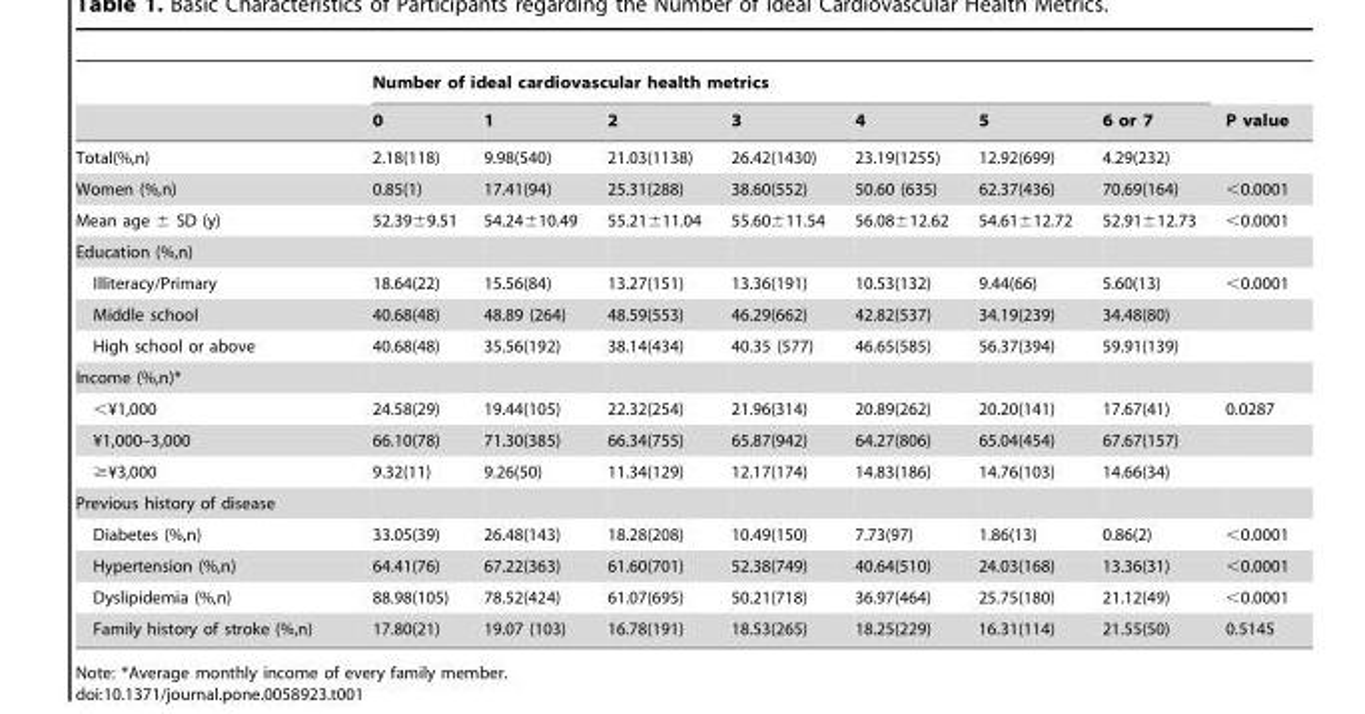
<table><thead><tr><td rowspan="2"></td><td colspan="7">Number of ideal cardiovascular health metrics</td><td rowspan="2">P value</td></tr><tr><td>0</td><td>1</td><td>2</td><td>3</td><td>4</td><td>5</td><td>6 or 7</td></tr></thead><tbody><tr><td>Total(%,n)</td><td>2.18(118)</td><td>9.98(540)</td><td>21.03(1138)</td><td>26.42(1430)</td><td>23.19(1255)</td><td>12.92(699)</td><td>4.29(232)</td><td></td></tr><tr><td>Women (%,n)</td><td>0.85(1)</td><td>17.41(94)</td><td>25.31(288)</td><td>38.60(552)</td><td>50.60 (635)</td><td>62.37(436)</td><td>70.69(164)</td><td>&lt;0.0001</td></tr><tr><td>Mean age ± SD (y)</td><td>52.39±9.51</td><td>54.24±10.49</td><td>55.21±11.04</td><td>55.60±11.54</td><td>56.08±12.62</td><td>54.61±12.72</td><td>52.91±12.73</td><td>&lt;0.0001</td></tr><tr><td colspan="9">Education (%,n)</td></tr><tr><td>Illiteracy/Primary</td><td>18.64(22)</td><td>15.56(84)</td><td>13.27(151)</td><td>13.36(191)</td><td>10.53(132)</td><td>9.44(66)</td><td>5.60(13)</td><td>&lt;0.0001</td></tr><tr><td>Middle school</td><td>40.68(48)</td><td>48.89 (264)</td><td>48.59(553)</td><td>46.29(662)</td><td>42.82(537)</td><td>34.19(239)</td><td>34.48(80)</td><td></td></tr><tr><td>High school or above</td><td>40.68(48)</td><td>35.56(192)</td><td>38.14(434)</td><td>40.35 (577)</td><td>46.65(585)</td><td>56.37(394)</td><td>59.91(139)</td><td></td></tr><tr><td colspan="9">Income (%,n)*</td></tr><tr><td>&lt;¥1,000</td><td>24.58(29)</td><td>19.44(105)</td><td>22.32(254)</td><td>21.96(314)</td><td>20.89(262)</td><td>20.20(141)</td><td>17.67(41)</td><td>0.0287</td></tr><tr><td>¥1,000–3,000</td><td>66.10(78)</td><td>71.30(385)</td><td>66.34(755)</td><td>65.87(942)</td><td>64.27(806)</td><td>65.04(454)</td><td>67.67(157)</td><td></td></tr><tr><td>≥¥3,000</td><td>9.32(11)</td><td>9.26(50)</td><td>11.34(129)</td><td>12.17(174)</td><td>14.83(186)</td><td>14.76(103)</td><td>14.66(34)</td><td></td></tr><tr><td colspan="9">Previous history of disease</td></tr><tr><td>Diabetes (%,n)</td><td>33.05(39)</td><td>26.48(143)</td><td>18.28(208)</td><td>10.49(150)</td><td>7.73(97)</td><td>1.86(13)</td><td>0.86(2)</td><td>&lt;0.0001</td></tr><tr><td>Hypertension (%,n)</td><td>64.41(76)</td><td>67.22(363)</td><td>61.60(701)</td><td>52.38(749)</td><td>40.64(510)</td><td>24.03(168)</td><td>13.36(31)</td><td>&lt;0.0001</td></tr><tr><td>Dyslipidemia (%,n)</td><td>88.98(105)</td><td>78.52(424)</td><td>61.07(695)</td><td>50.21(718)</td><td>36.97(464)</td><td>25.75(180)</td><td>21.12(49)</td><td>&lt;0.0001</td></tr><tr><td>Family history of stroke (%,n)</td><td>17.80(21)</td><td>19.07 (103)</td><td>16.78(191)</td><td>18.53(265)</td><td>18.25(229)</td><td>16.31(114)</td><td>21.55(50)</td><td>0.5145</td></tr></tbody></table>